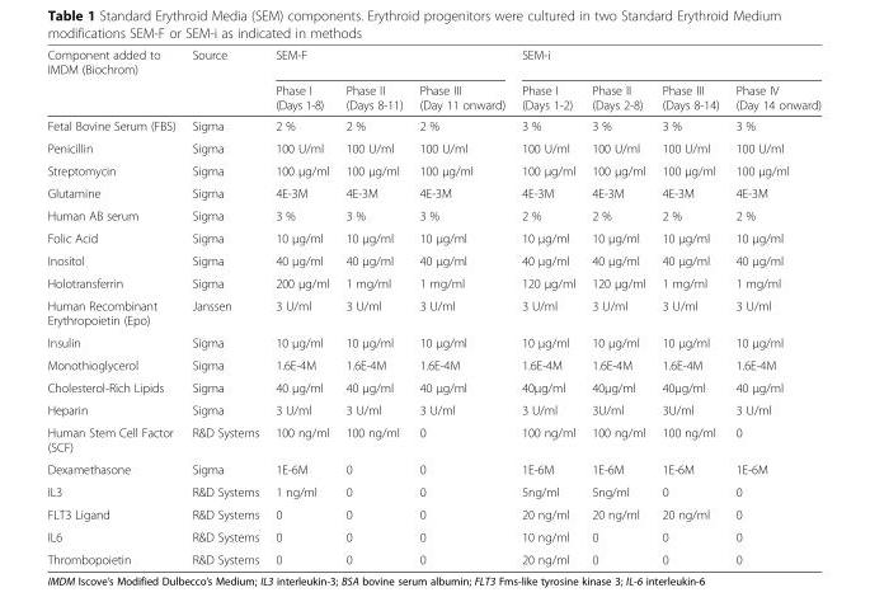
<table><thead><tr><td rowspan="2">Component added to IMDM (Biochrom)</td><td rowspan="2">Source</td><td colspan="3">SEM-F</td><td colspan="4">SEM-i</td></tr><tr><td>Phase I (Days 1-8)</td><td>Phase II (Days 8-11)</td><td>Phase III (Day 11 onward)</td><td>Phase I (Days 1-2)</td><td>Phase II (Days 2-8)</td><td>Phase III (Days 8-14)</td><td>Phase IV (Day 14 onward)</td></tr></thead><tbody><tr><td>Fetal Bovine Serum (FBS)</td><td>Sigma</td><td>2 %</td><td>2 %</td><td>2 %</td><td>3 %</td><td>3 %</td><td>3 %</td><td>3 %</td></tr><tr><td>Penicillin</td><td>Sigma</td><td>100 U/ml</td><td>100 U/ml</td><td>100 U/ml</td><td>100 U/ml</td><td>100 U/ml</td><td>100 U/ml</td><td>100 U/ml</td></tr><tr><td>Streptomycin</td><td>Sigma</td><td>100 μg/ml</td><td>100 μg/ml</td><td>100 μg/ml</td><td>100 μg/ml</td><td>100 μg/ml</td><td>100 μg/ml</td><td>100 μg/ml</td></tr><tr><td>Glutamine</td><td>Sigma</td><td>4E-3M</td><td>4E-3M</td><td>4E-3M</td><td>4E-3M</td><td>4E-3M</td><td>4E-3M</td><td>4E-3M</td></tr><tr><td>Human AB serum</td><td>Sigma</td><td>3 %</td><td>3 %</td><td>3 %</td><td>2 %</td><td>2 %</td><td>2 %</td><td>2 %</td></tr><tr><td>Folic Acid</td><td>Sigma</td><td>10 μg/ml</td><td>10 μg/ml</td><td>10 μg/ml</td><td>10 μg/ml</td><td>10 μg/ml</td><td>10 μg/ml</td><td>10 μg/ml</td></tr><tr><td>Inositol</td><td>Sigma</td><td>40 μg/ml</td><td>40 μg/ml</td><td>40 μg/ml</td><td>40 μg/ml</td><td>40 μg/ml</td><td>40 μg/ml</td><td>40 μg/ml</td></tr><tr><td>Holotransferrin</td><td>Sigma</td><td>200 μg/ml</td><td>1 mg/ml</td><td>1 mg/ml</td><td>120 μg/ml</td><td>120 μg/ml</td><td>1 mg/ml</td><td>1 mg/ml</td></tr><tr><td>Human Recombinant Erythropoietin (Epo)</td><td>Janssen</td><td>3 U/ml</td><td>3 U/ml</td><td>3 U/ml</td><td>3 U/ml</td><td>3 U/ml</td><td>3 U/ml</td><td>3 U/ml</td></tr><tr><td>Insulin</td><td>Sigma</td><td>10 μg/ml</td><td>10 μg/ml</td><td>10 μg/ml</td><td>10 μg/ml</td><td>10 μg/ml</td><td>10 μg/ml</td><td>10 μg/ml</td></tr><tr><td>Monothioglycerol</td><td>Sigma</td><td>1.6E-4M</td><td>1.6E-4M</td><td>1.6E-4M</td><td>1.6E-4M</td><td>1.6E-4M</td><td>1.6E-4M</td><td>1.6E-4M</td></tr><tr><td>Cholesterol-Rich Lipids</td><td>Sigma</td><td>40 μg/ml</td><td>40 μg/ml</td><td>40 μg/ml</td><td>40μg/ml</td><td>40μg/ml</td><td>40μg/ml</td><td>40 μg/ml</td></tr><tr><td>Heparin</td><td>Sigma</td><td>3 U/ml</td><td>3 U/ml</td><td>3 U/ml</td><td>3 U/ml</td><td>3U/ml</td><td>3U/ml</td><td>3 U/ml</td></tr><tr><td>Human Stem Cell Factor (SCF)</td><td>R&amp;D Systems</td><td>100 ng/ml</td><td>100 ng/ml</td><td>0</td><td>100 ng/ml</td><td>100 ng/ml</td><td>100 ng/ml</td><td>0</td></tr><tr><td>Dexamethasone</td><td>Sigma</td><td>1E-6M</td><td>0</td><td>0</td><td>1E-6M</td><td>1E-6M</td><td>1E-6M</td><td>1E-6M</td></tr><tr><td>IL3</td><td>R&amp;D Systems</td><td>1 ng/ml</td><td>0</td><td>0</td><td>5ng/ml</td><td>5ng/ml</td><td>0</td><td>0</td></tr><tr><td>FLT3 Ligand</td><td>R&amp;D Systems</td><td>0</td><td>0</td><td>0</td><td>20 ng/ml</td><td>20 ng/ml</td><td>20 ng/ml</td><td>0</td></tr><tr><td>IL6</td><td>R&amp;D Systems</td><td>0</td><td>0</td><td>0</td><td>10 ng/ml</td><td>0</td><td>0</td><td>0</td></tr><tr><td>Thrombopoietin</td><td>R&amp;D Systems</td><td>0</td><td>0</td><td>0</td><td>20 ng/ml</td><td>0</td><td>0</td><td>0</td></tr></tbody></table>